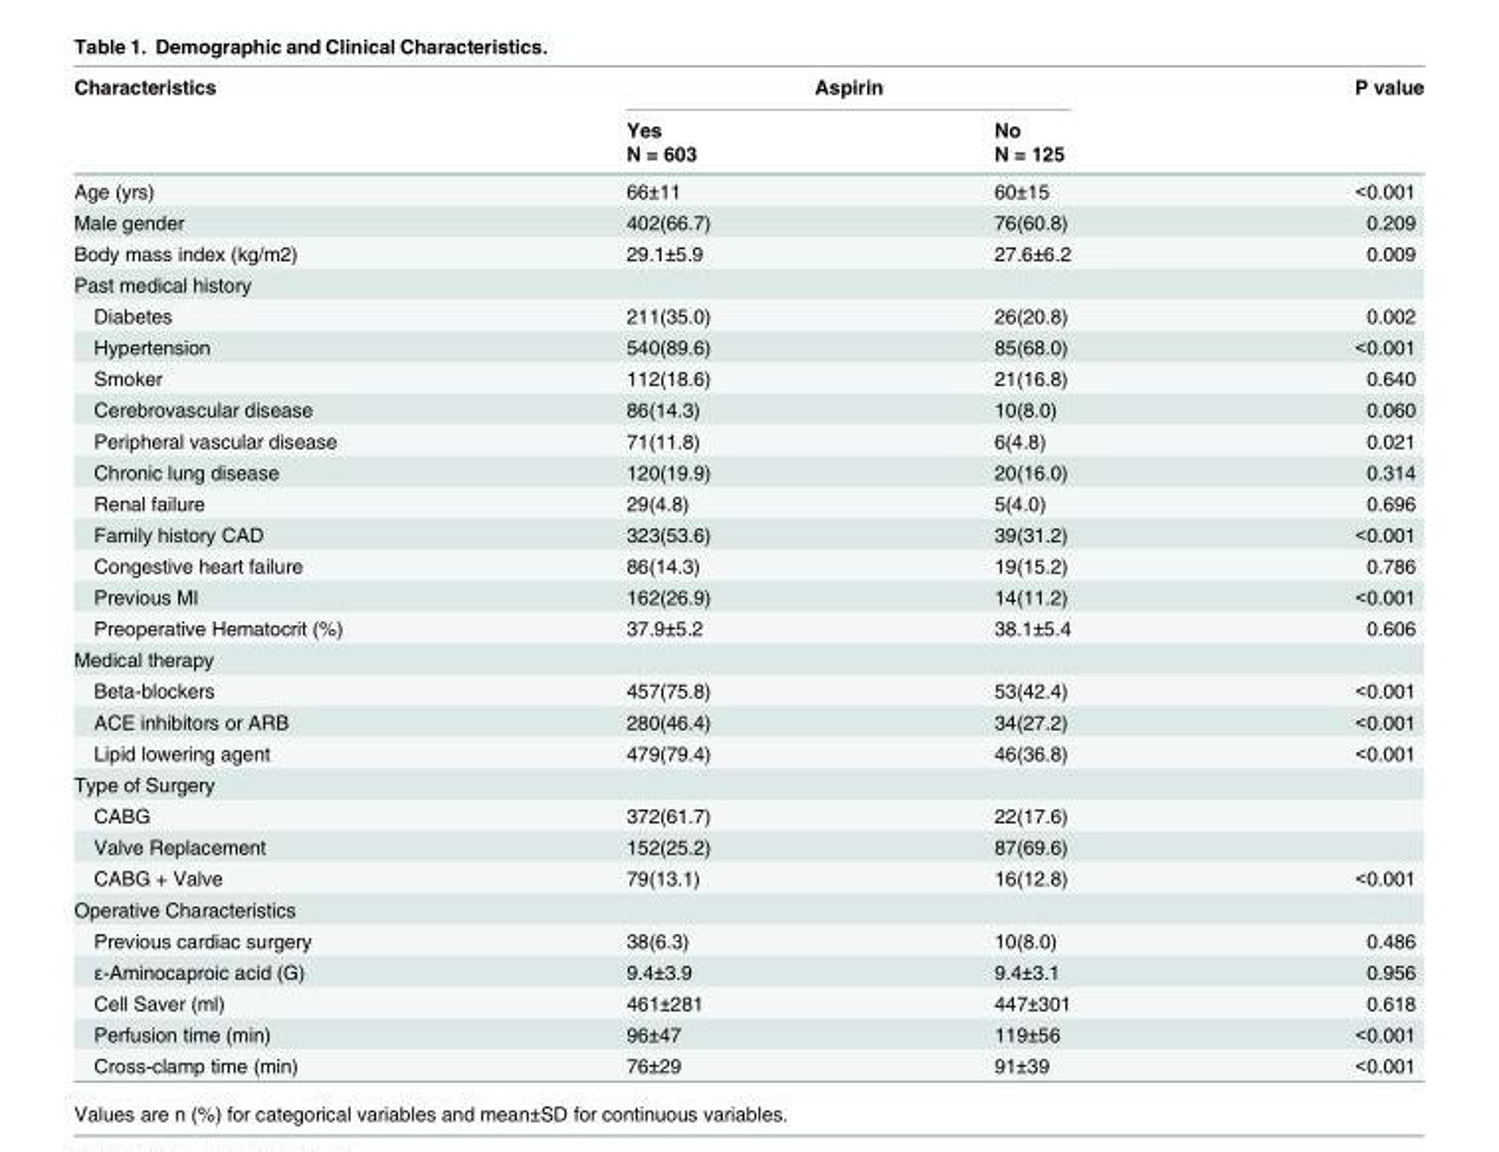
<table><thead><tr><td rowspan="3">Characteristics</td><td colspan="2">Aspirin</td><td rowspan="3">P value</td></tr><tr><td rowspan="2">Yes N = 603</td><td rowspan="2">No N = 125</td></tr><tr></tr></thead><tbody><tr><td>Age (yrs)</td><td>66±11</td><td>60±15</td><td>&lt;0.001</td></tr><tr><td>Male gender</td><td>402(66.7)</td><td>76(60.8)</td><td>0.209</td></tr><tr><td>Body mass index (kg/m2)</td><td>29.1±5.9</td><td>27.6±6.2</td><td>0.009</td></tr><tr><td colspan="4">Past medical history</td></tr><tr><td>Diabetes</td><td>211(35.0)</td><td>26(20.8)</td><td>0.002</td></tr><tr><td>Hypertension</td><td>540(89.6)</td><td>85(68.0)</td><td>&lt;0.001</td></tr><tr><td>Smoker</td><td>112(18.6)</td><td>21(16.8)</td><td>0.640</td></tr><tr><td>Cerebrovascular disease</td><td>86(14.3)</td><td>10(8.0)</td><td>0.060</td></tr><tr><td>Peripheral vascular disease</td><td>71(11.8)</td><td>6(4.8)</td><td>0.021</td></tr><tr><td>Chronic lung disease</td><td>120(19.9)</td><td>20(16.0)</td><td>0.314</td></tr><tr><td>Renal failure</td><td>29(4.8)</td><td>5(4.0)</td><td>0.696</td></tr><tr><td>Family history CAD</td><td>323(53.6)</td><td>39(31.2)</td><td>&lt;0.001</td></tr><tr><td>Congestive heart failure</td><td>86(14.3)</td><td>19(15.2)</td><td>0.786</td></tr><tr><td>Previous MI</td><td>162(26.9)</td><td>14(11.2)</td><td>&lt;0.001</td></tr><tr><td>Preoperative Hematocrit (%)</td><td>37.9±5.2</td><td>38.1±5.4</td><td>0.606</td></tr><tr><td colspan="4">Medical therapy</td></tr><tr><td>Beta-blockers</td><td>457(75.8)</td><td>53(42.4)</td><td>&lt;0.001</td></tr><tr><td>ACE inhibitors or ARB</td><td>280(46.4)</td><td>34(27.2)</td><td>&lt;0.001</td></tr><tr><td>Lipid lowering agent</td><td>479(79.4)</td><td>46(36.8)</td><td>&lt;0.001</td></tr><tr><td colspan="4">Type of Surgery</td></tr><tr><td>CABG</td><td>372(61.7)</td><td>22(17.6)</td><td></td></tr><tr><td>Valve Replacement</td><td>152(25.2)</td><td>87(69.6)</td><td></td></tr><tr><td>CABG + Valve</td><td>79(13.1)</td><td>16(12.8)</td><td>&lt;0.001</td></tr><tr><td colspan="4">Operative Characteristics</td></tr><tr><td>Previous cardiac surgery</td><td>38(6.3)</td><td>10(8.0)</td><td>0.486</td></tr><tr><td>ε-Aminocaproic acid (G)</td><td>9.4±3.9</td><td>9.4±3.1</td><td>0.956</td></tr><tr><td>Cell Saver (ml)</td><td>461±281</td><td>447±301</td><td>0.618</td></tr><tr><td>Perfusion time (min)</td><td>96±47</td><td>119±56</td><td>&lt;0.001</td></tr><tr><td>Cross-clamp time (min)</td><td>76±29</td><td>91±39</td><td>&lt;0.001</td></tr></tbody></table>